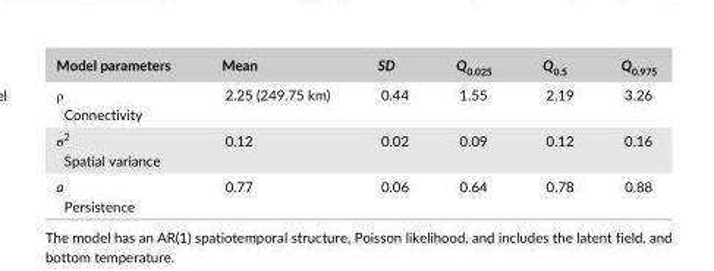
<table><thead><tr><td>Model parameters</td><td>Mean</td><td>SD</td><td>Q<sub>0.025</sub></td><td>Q<sub>0.5</sub></td><td>Q<sub>0.975</sub></td></tr></thead><tbody><tr><td>ρ Connectivity</td><td>2.25 (249.75 km)</td><td>0.44</td><td>1.55</td><td>2.19</td><td>3.26</td></tr><tr><td>σ<sup>2</sup> Spatial variance</td><td>0.12</td><td>0.02</td><td>0.09</td><td>0.12</td><td>0.16</td></tr><tr><td>a Persistence</td><td>0.77</td><td>0.06</td><td>0.64</td><td>0.78</td><td>0.88</td></tr></tbody></table>